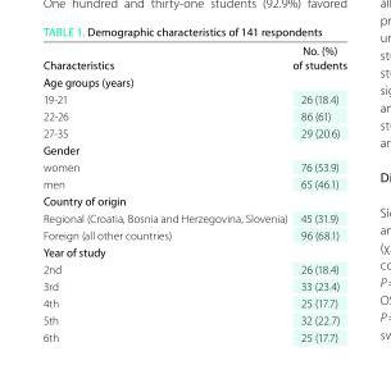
<table><thead><tr><td>Characteristics</td><td>No. (%) of students</td></tr></thead><tbody><tr><td colspan="2">Age groups (years)</td></tr><tr><td>19-21</td><td>26 (18.4)</td></tr><tr><td>22-26</td><td>86 (61)</td></tr><tr><td>27-35</td><td>29 (20.6)</td></tr><tr><td colspan="2">Gender</td></tr><tr><td>women</td><td>76 (53.9)</td></tr><tr><td>men</td><td>65 (46.1)</td></tr><tr><td colspan="2">Country of origin</td></tr><tr><td>Regional (Croatia, Bosnia and Herzegovina, Slovenia)</td><td>45 (31.9)</td></tr><tr><td>Foreign (all other countries)</td><td>96 (68.1)</td></tr><tr><td colspan="2">Year of study</td></tr><tr><td>2nd</td><td>26 (18.4)</td></tr><tr><td>3rd</td><td>33 (23.4)</td></tr><tr><td>4th</td><td>25 (17.7)</td></tr><tr><td>5th</td><td>32 (22.7)</td></tr><tr><td>6th</td><td>25 (17.7)</td></tr></tbody></table>